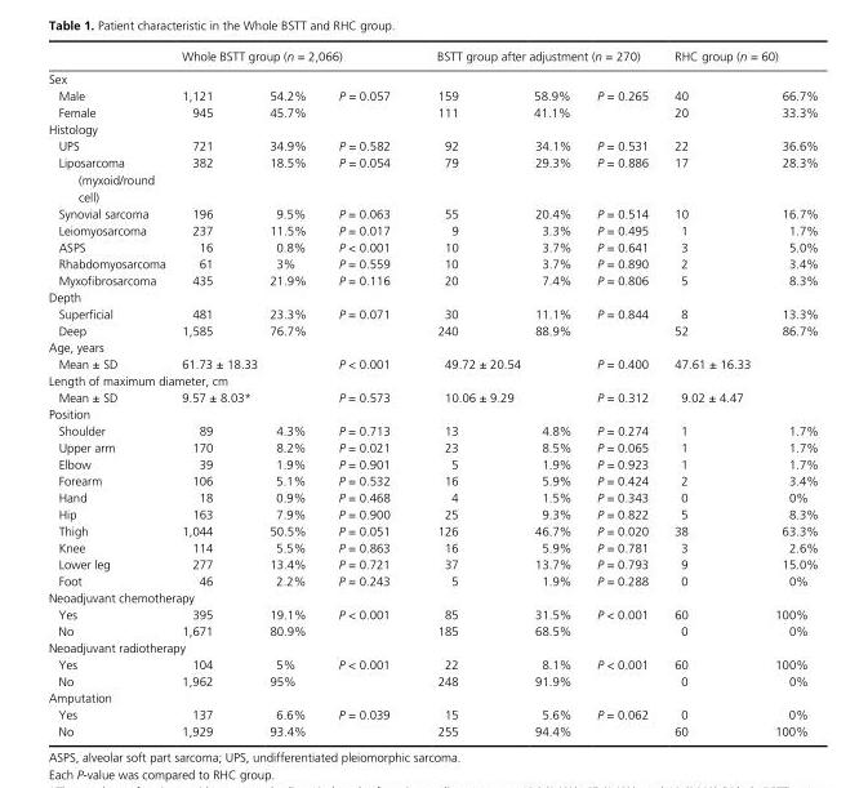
<table><thead><tr><td></td><td colspan="3">Whole BSTT group (n = 2,066)</td><td colspan="3">BSTT group after adjustment (n = 270)</td><td colspan="2">RHC group (n = 60)</td></tr><tr><td colspan="9">Sex</td></tr><tr><td>Male</td><td>1,121</td><td>54.2%</td><td>P = 0.057</td><td>159</td><td>58.9%</td><td>P = 0.265</td><td>40</td><td>66.7%</td></tr></thead><tbody><tr><td>Female</td><td>945</td><td>45.7%</td><td></td><td>111</td><td>41.1%</td><td></td><td>20</td><td>33.3%</td></tr><tr><td colspan="9">Histology</td></tr><tr><td>UPS</td><td>721</td><td>34.9%</td><td>P = 0.582</td><td>92</td><td>34.1%</td><td>P = 0.531</td><td>22</td><td>36.6%</td></tr><tr><td>Liposarcoma (myxoid/round cell)</td><td>382</td><td>18.5%</td><td>P = 0.054</td><td>79</td><td>29.3%</td><td>P = 0.886</td><td>17</td><td>28.3%</td></tr><tr><td>Synovial sarcoma</td><td>196</td><td>9.5%</td><td>P = 0.063</td><td>55</td><td>20.4%</td><td>P = 0.514</td><td>10</td><td>16.7%</td></tr><tr><td>Leiomyosarcoma</td><td>237</td><td>11.5%</td><td>P = 0.017</td><td>9</td><td>3.3%</td><td>P = 0.495</td><td>1</td><td>1.7%</td></tr><tr><td>ASPS</td><td>16</td><td>0.8%</td><td>P &lt; 0.001</td><td>10</td><td>3.7%</td><td>P = 0.641</td><td>3</td><td>5.0%</td></tr><tr><td>Rhabdomyosarcoma</td><td>61</td><td>3%</td><td>P = 0.559</td><td>10</td><td>3.7%</td><td>P = 0.890</td><td>2</td><td>3.4%</td></tr><tr><td>Myxofibrosarcoma</td><td>435</td><td>21.9%</td><td>P = 0.116</td><td>20</td><td>7.4%</td><td>P = 0.806</td><td>5</td><td>8.3%</td></tr><tr><td colspan="9">Depth</td></tr><tr><td>Superficial</td><td>481</td><td>23.3%</td><td>P = 0.071</td><td>30</td><td>11.1%</td><td>P = 0.844</td><td>8</td><td>13.3%</td></tr><tr><td>Deep</td><td>1,585</td><td>76.7%</td><td></td><td>240</td><td>88.9%</td><td></td><td>52</td><td>86.7%</td></tr><tr><td colspan="9">Age, years</td></tr><tr><td>Mean ± SD</td><td>61.73 ± 18.33</td><td></td><td>P &lt; 0.001</td><td>49.72 ± 20.54</td><td></td><td>P = 0.400</td><td>47.61 ± 16.33</td><td></td></tr><tr><td colspan="9">Length of maximum diameter, cm</td></tr><tr><td>Mean ± SD</td><td>9.57 ± 8.03*</td><td></td><td>P = 0.573</td><td>10.06 ± 9.29</td><td></td><td>P = 0.312</td><td>9.02 ± 4.47</td><td></td></tr><tr><td colspan="9">Position</td></tr><tr><td>Shoulder</td><td>89</td><td>4.3%</td><td>P = 0.713</td><td>13</td><td>4.8%</td><td>P = 0.274</td><td>1</td><td>1.7%</td></tr><tr><td>Upper arm</td><td>170</td><td>8.2%</td><td>P = 0.021</td><td>23</td><td>8.5%</td><td>P = 0.065</td><td>1</td><td>1.7%</td></tr><tr><td>Elbow</td><td>39</td><td>1.9%</td><td>P = 0.901</td><td>5</td><td>1.9%</td><td>P = 0.923</td><td>1</td><td>1.7%</td></tr><tr><td>Forearm</td><td>106</td><td>5.1%</td><td>P = 0.532</td><td>16</td><td>5.9%</td><td>P = 0.424</td><td>2</td><td>3.4%</td></tr><tr><td>Hand</td><td>18</td><td>0.9%</td><td>P = 0.468</td><td>4</td><td>1.5%</td><td>P = 0.343</td><td>0</td><td>0%</td></tr><tr><td>Hip</td><td>163</td><td>7.9%</td><td>P = 0.900</td><td>25</td><td>9.3%</td><td>P = 0.822</td><td>5</td><td>8.3%</td></tr><tr><td>Thigh</td><td>1,044</td><td>50.5%</td><td>P = 0.051</td><td>126</td><td>46.7%</td><td>P = 0.020</td><td>38</td><td>63.3%</td></tr><tr><td>Knee</td><td>114</td><td>5.5%</td><td>P = 0.863</td><td>16</td><td>5.9%</td><td>P = 0.781</td><td>3</td><td>2.6%</td></tr><tr><td>Lower leg</td><td>277</td><td>13.4%</td><td>P = 0.721</td><td>37</td><td>13.7%</td><td>P = 0.793</td><td>9</td><td>15.0%</td></tr><tr><td>Foot</td><td>46</td><td>2.2%</td><td>P = 0.243</td><td>5</td><td>1.9%</td><td>P = 0.288</td><td>0</td><td>0%</td></tr><tr><td colspan="9">Neoadjuvant chemotherapy</td></tr><tr><td>Yes</td><td>395</td><td>19.1%</td><td>P &lt; 0.001</td><td>85</td><td>31.5%</td><td>P &lt; 0.001</td><td>60</td><td>100%</td></tr><tr><td>No</td><td>1,671</td><td>80.9%</td><td></td><td>185</td><td>68.5%</td><td></td><td>0</td><td>0%</td></tr><tr><td colspan="9">Neoadjuvant radiotherapy</td></tr><tr><td>Yes</td><td>104</td><td>5%</td><td>P &lt; 0.001</td><td>22</td><td>8.1%</td><td>P &lt; 0.001</td><td>60</td><td>100%</td></tr><tr><td>No</td><td>1,962</td><td>95%</td><td></td><td>248</td><td>91.9%</td><td></td><td>0</td><td>0%</td></tr><tr><td colspan="9">Amputation</td></tr><tr><td>Yes</td><td>137</td><td>6.6%</td><td>P = 0.039</td><td>15</td><td>5.6%</td><td>P = 0.062</td><td>0</td><td>0%</td></tr><tr><td>No</td><td>1,929</td><td>93.4%</td><td></td><td>255</td><td>94.4%</td><td></td><td>60</td><td>100%</td></tr></tbody></table>